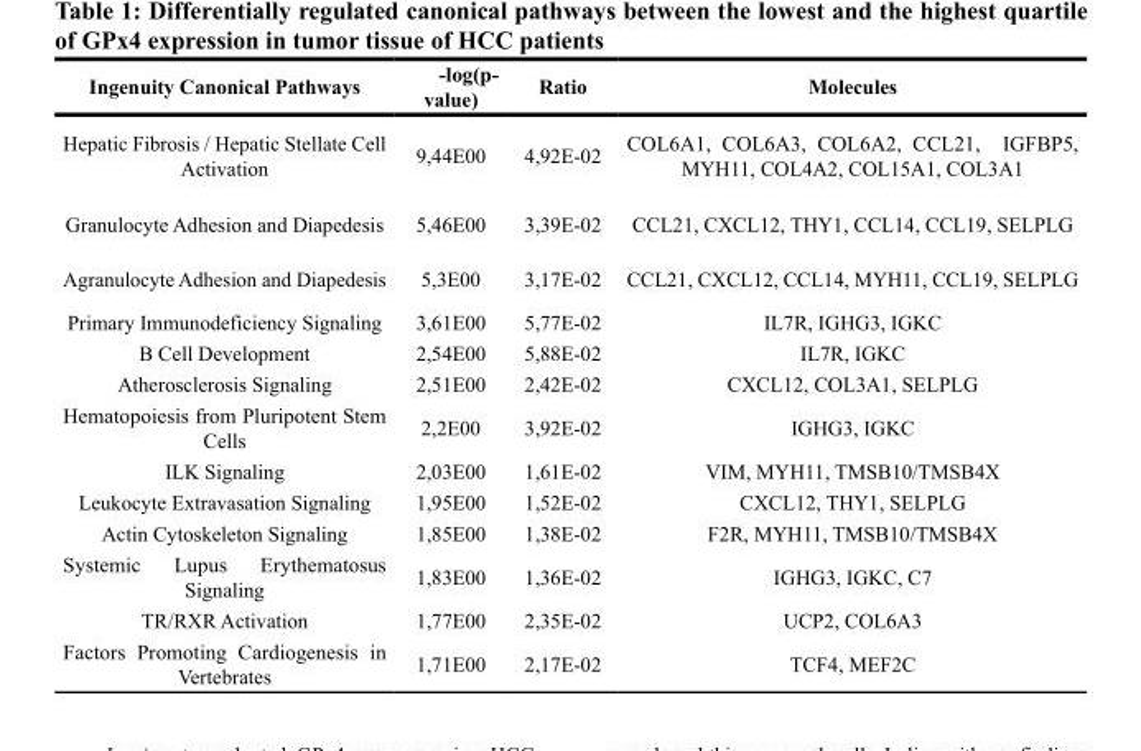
<table><thead><tr><td>Ingenuity Canonical Pathways</td><td>-log(p- value)</td><td>Ratio</td><td>Molecules</td></tr></thead><tbody><tr><td>Hepatic Fibrosis / Hepatic Stellate Cell Activation</td><td>9,44E00</td><td>4,92E-02</td><td>COL6A1, COL6A3, COL6A2, CCL21, IGFBP5, MYH11, COL4A2, COL15A1, COL3A1</td></tr><tr><td>Granulocyte Adhesion and Diapedesis</td><td>5,46E00</td><td>3,39E-02</td><td>CCL21, CXCL12, THY1, CCL14, CCL19, SELPLG</td></tr><tr><td>Agranulocyte Adhesion and Diapedesis</td><td>5,3E00</td><td>3,17E-02</td><td>CCL21, CXCL12, CCL14, MYH11, CCL19, SELPLG</td></tr><tr><td>Primary Immunodeficiency Signaling</td><td>3,61E00</td><td>5,77E-02</td><td>IL7R, IGHG3, IGKC</td></tr><tr><td>B Cell Development</td><td>2,54E00</td><td>5,88E-02</td><td>IL7R, IGKC</td></tr><tr><td>Atherosclerosis Signaling</td><td>2,51E00</td><td>2,42E-02</td><td>CXCL12, COL3A1, SELPLG</td></tr><tr><td>Hematopoiesis from Pluripotent Stem Cells</td><td>2,2E00</td><td>3,92E-02</td><td>IGHG3, IGKC</td></tr><tr><td>ILK Signaling</td><td>2,03E00</td><td>1,61E-02</td><td>VIM, MYH11, TMSB10/TMSB4X</td></tr><tr><td>Leukocyte Extravasation Signaling</td><td>1,95E00</td><td>1,52E-02</td><td>CXCL12, THY1, SELPLG</td></tr><tr><td>Actin Cytoskeleton Signaling</td><td>1,85E00</td><td>1,38E-02</td><td>F2R, MYH11, TMSB10/TMSB4X</td></tr><tr><td>Systemic Lupus Erythematosus Signaling</td><td>1,83E00</td><td>1,36E-02</td><td>IGHG3, IGKC, C7</td></tr><tr><td>TR/RXR Activation</td><td>1,77E00</td><td>2,35E-02</td><td>UCP2, COL6A3</td></tr><tr><td>Factors Promoting Cardiogenesis in Vertebrates</td><td>1,71E00</td><td>2,17E-02</td><td>TCF4, MEF2C</td></tr></tbody></table>